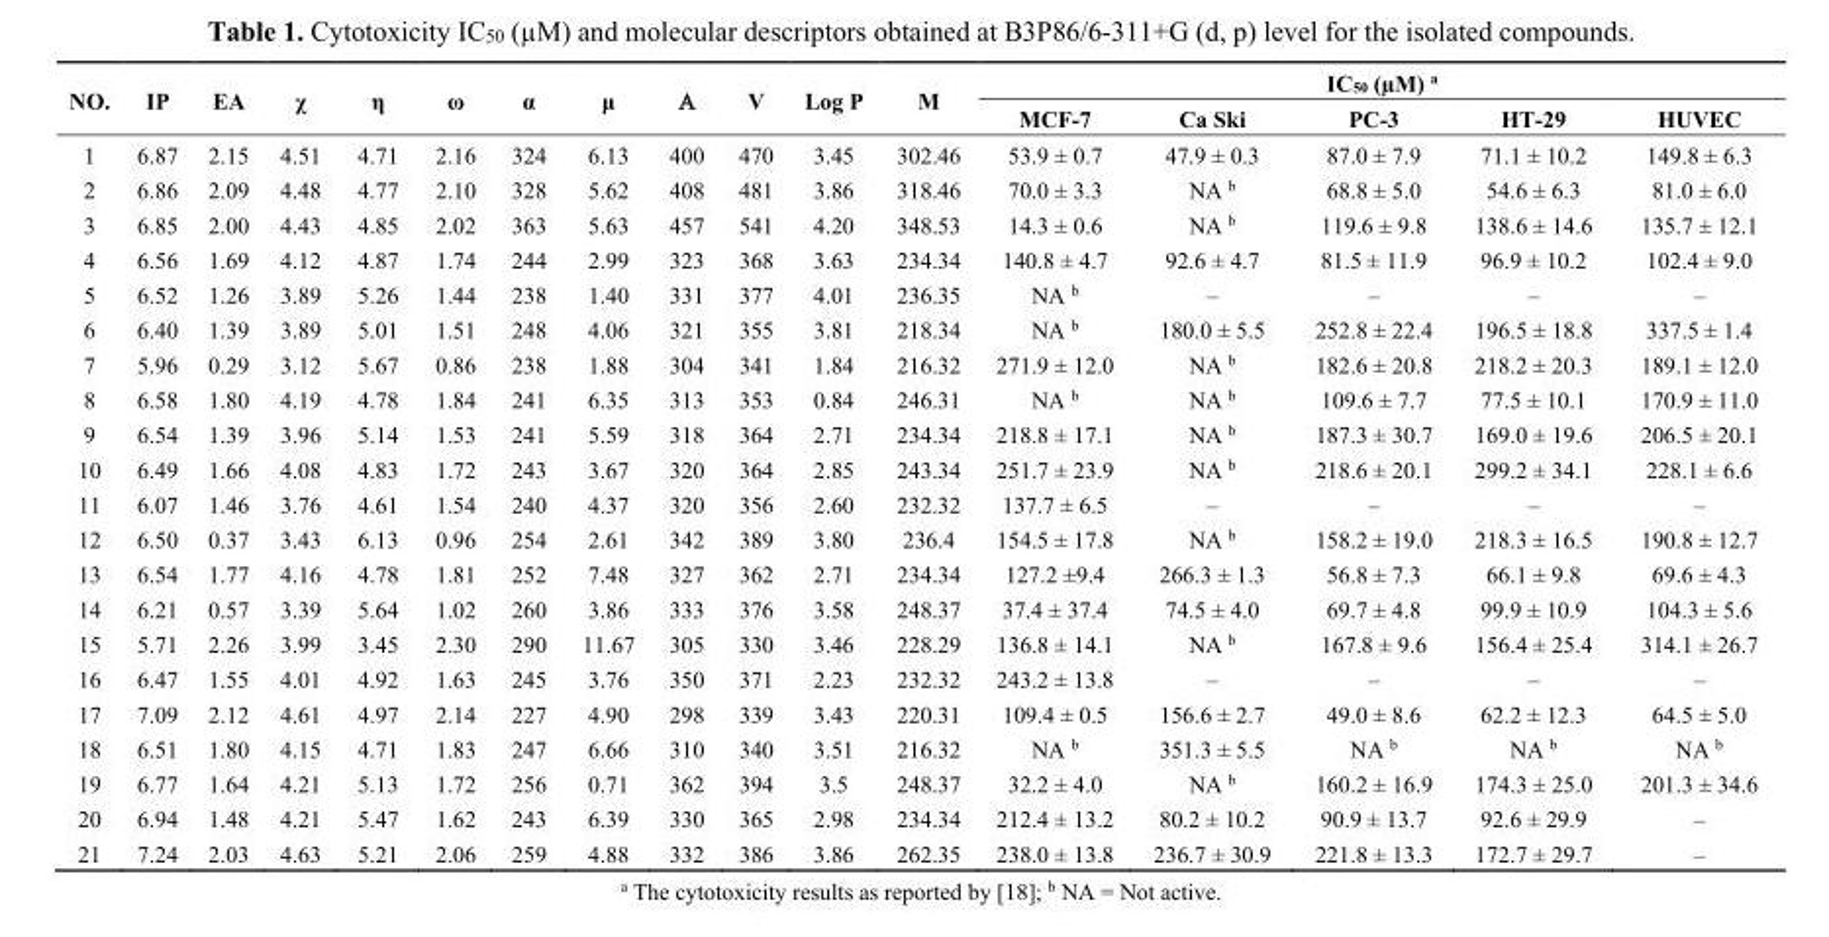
<table><thead><tr><td rowspan="2">NO.</td><td rowspan="2">IP</td><td rowspan="2">EA</td><td rowspan="2">χ</td><td rowspan="2">η</td><td rowspan="2">ω</td><td rowspan="2">α</td><td rowspan="2">μ</td><td rowspan="2">Α</td><td rowspan="2">V</td><td rowspan="2">Log P</td><td rowspan="2">M</td><td colspan="5">IC<sub>50</sub> (µM) <sup>a</sup></td></tr><tr><td>MCF-7</td><td>Ca Ski</td><td>PC-3</td><td>HT-29</td><td>HUVEC</td></tr></thead><tbody><tr><td>1</td><td>6.87</td><td>2.15</td><td>4.51</td><td>4.71</td><td>2.16</td><td>324</td><td>6.13</td><td>400</td><td>470</td><td>3.45</td><td>302.46</td><td>53.9 ± 0.7</td><td>47.9 ± 0.3</td><td>87.0 ± 7.9</td><td>71.1 ± 10.2</td><td>149.8 ± 6.3</td></tr><tr><td>2</td><td>6.86</td><td>2.09</td><td>4.48</td><td>4.77</td><td>2.10</td><td>328</td><td>5.62</td><td>408</td><td>481</td><td>3.86</td><td>318.46</td><td>70.0 ± 3.3</td><td>NA <sup>b</sup></td><td>68.8 ± 5.0</td><td>54.6 ± 6.3</td><td>81.0 ± 6.0</td></tr><tr><td>3</td><td>6.85</td><td>2.00</td><td>4.43</td><td>4.85</td><td>2.02</td><td>363</td><td>5.63</td><td>457</td><td>541</td><td>4.20</td><td>348.53</td><td>14.3 ± 0.6</td><td>NA <sup>b</sup></td><td>119.6 ± 9.8</td><td>138.6 ± 14.6</td><td>135.7 ± 12.1</td></tr><tr><td>4</td><td>6.56</td><td>1.69</td><td>4.12</td><td>4.87</td><td>1.74</td><td>244</td><td>2.99</td><td>323</td><td>368</td><td>3.63</td><td>234.34</td><td>140.8 ± 4.7</td><td>92.6 ± 4.7</td><td>81.5 ± 11.9</td><td>96.9 ± 10.2</td><td>102.4 ± 9.0</td></tr><tr><td>5</td><td>6.52</td><td>1.26</td><td>3.89</td><td>5.26</td><td>1.44</td><td>238</td><td>1.40</td><td>331</td><td>377</td><td>4.01</td><td>236.35</td><td>NA <sup>b</sup></td><td>–</td><td>–</td><td>–</td><td>–</td></tr><tr><td>6</td><td>6.40</td><td>1.39</td><td>3.89</td><td>5.01</td><td>1.51</td><td>248</td><td>4.06</td><td>321</td><td>355</td><td>3.81</td><td>218.34</td><td>NA <sup>b</sup></td><td>180.0 ± 5.5</td><td>252.8 ± 22.4</td><td>196.5 ± 18.8</td><td>337.5 ± 1.4</td></tr><tr><td>7</td><td>5.96</td><td>0.29</td><td>3.12</td><td>5.67</td><td>0.86</td><td>238</td><td>1.88</td><td>304</td><td>341</td><td>1.84</td><td>216.32</td><td>271.9 ± 12.0</td><td>NA <sup>b</sup></td><td>182.6 ± 20.8</td><td>218.2 ± 20.3</td><td>189.1 ± 12.0</td></tr><tr><td>8</td><td>6.58</td><td>1.80</td><td>4.19</td><td>4.78</td><td>1.84</td><td>241</td><td>6.35</td><td>313</td><td>353</td><td>0.84</td><td>246.31</td><td>NA <sup>b</sup></td><td>NA <sup>b</sup></td><td>109.6 ± 7.7</td><td>77.5 ± 10.1</td><td>170.9 ± 11.0</td></tr><tr><td>9</td><td>6.54</td><td>1.39</td><td>3.96</td><td>5.14</td><td>1.53</td><td>241</td><td>5.59</td><td>318</td><td>364</td><td>2.71</td><td>234.34</td><td>218.8 ± 17.1</td><td>NA <sup>b</sup></td><td>187.3 ± 30.7</td><td>169.0 ± 19.6</td><td>206.5 ± 20.1</td></tr><tr><td>10</td><td>6.49</td><td>1.66</td><td>4.08</td><td>4.83</td><td>1.72</td><td>243</td><td>3.67</td><td>320</td><td>364</td><td>2.85</td><td>243.34</td><td>251.7 ± 23.9</td><td>NA <sup>b</sup></td><td>218.6 ± 20.1</td><td>299.2 ± 34.1</td><td>228.1 ± 6.6</td></tr><tr><td>11</td><td>6.07</td><td>1.46</td><td>3.76</td><td>4.61</td><td>1.54</td><td>240</td><td>4.37</td><td>320</td><td>356</td><td>2.60</td><td>232.32</td><td>137.7 ± 6.5</td><td>–</td><td>–</td><td>–</td><td>–</td></tr><tr><td>12</td><td>6.50</td><td>0.37</td><td>3.43</td><td>6.13</td><td>0.96</td><td>254</td><td>2.61</td><td>342</td><td>389</td><td>3.80</td><td>236.4</td><td>154.5 ± 17.8</td><td>NA <sup>b</sup></td><td>158.2 ± 19.0</td><td>218.3 ± 16.5</td><td>190.8 ± 12.7</td></tr><tr><td>13</td><td>6.54</td><td>1.77</td><td>4.16</td><td>4.78</td><td>1.81</td><td>252</td><td>7.48</td><td>327</td><td>362</td><td>2.71</td><td>234.34</td><td>127.2 ±9.4</td><td>266.3 ± 1.3</td><td>56.8 ± 7.3</td><td>66.1 ± 9.8</td><td>69.6 ± 4.3</td></tr><tr><td>14</td><td>6.21</td><td>0.57</td><td>3.39</td><td>5.64</td><td>1.02</td><td>260</td><td>3.86</td><td>333</td><td>376</td><td>3.58</td><td>248.37</td><td>37.4 ± 37.4</td><td>74.5 ± 4.0</td><td>69.7 ± 4.8</td><td>99.9 ± 10.9</td><td>104.3 ± 5.6</td></tr><tr><td>15</td><td>5.71</td><td>2.26</td><td>3.99</td><td>3.45</td><td>2.30</td><td>290</td><td>11.67</td><td>305</td><td>330</td><td>3.46</td><td>228.29</td><td>136.8 ± 14.1</td><td>NA <sup>b</sup></td><td>167.8 ± 9.6</td><td>156.4 ± 25.4</td><td>314.1 ± 26.7</td></tr><tr><td>16</td><td>6.47</td><td>1.55</td><td>4.01</td><td>4.92</td><td>1.63</td><td>245</td><td>3.76</td><td>350</td><td>371</td><td>2.23</td><td>232.32</td><td>243.2 ± 13.8</td><td>–</td><td>–</td><td>–</td><td>–</td></tr><tr><td>17</td><td>7.09</td><td>2.12</td><td>4.61</td><td>4.97</td><td>2.14</td><td>227</td><td>4.90</td><td>298</td><td>339</td><td>3.43</td><td>220.31</td><td>109.4 ± 0.5</td><td>156.6 ± 2.7</td><td>49.0 ± 8.6</td><td>62.2 ± 12.3</td><td>64.5 ± 5.0</td></tr><tr><td>18</td><td>6.51</td><td>1.80</td><td>4.15</td><td>4.71</td><td>1.83</td><td>247</td><td>6.66</td><td>310</td><td>340</td><td>3.51</td><td>216.32</td><td>NA <sup>b</sup></td><td>351.3 ± 5.5</td><td>NA <sup>b</sup></td><td>NA <sup>b</sup></td><td>NA <sup>b</sup></td></tr><tr><td>19</td><td>6.77</td><td>1.64</td><td>4.21</td><td>5.13</td><td>1.72</td><td>256</td><td>0.71</td><td>362</td><td>394</td><td>3.5</td><td>248.37</td><td>32.2 ± 4.0</td><td>NA <sup>b</sup></td><td>160.2 ± 16.9</td><td>174.3 ± 25.0</td><td>201.3 ± 34.6</td></tr><tr><td>20</td><td>6.94</td><td>1.48</td><td>4.21</td><td>5.47</td><td>1.62</td><td>243</td><td>6.39</td><td>330</td><td>365</td><td>2.98</td><td>234.34</td><td>212.4 ± 13.2</td><td>80.2 ± 10.2</td><td>90.9 ± 13.7</td><td>92.6 ± 29.9</td><td>–</td></tr><tr><td>21</td><td>7.24</td><td>2.03</td><td>4.63</td><td>5.21</td><td>2.06</td><td>259</td><td>4.88</td><td>332</td><td>386</td><td>3.86</td><td>262.35</td><td>238.0 ± 13.8</td><td>236.7 ± 30.9</td><td>221.8 ± 13.3</td><td>172.7 ± 29.7</td><td>–</td></tr></tbody></table>